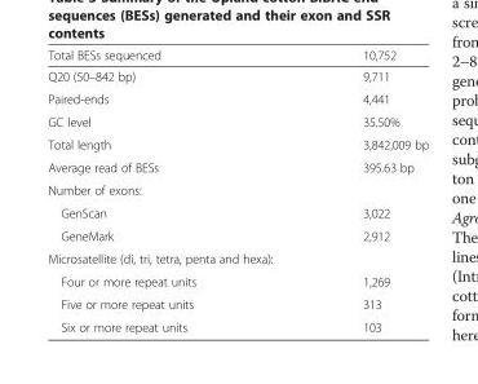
<table><thead><tr><td>Total BESs sequenced</td><td>10,752</td></tr></thead><tbody><tr><td>Q20 (50–842 bp)</td><td>9,711</td></tr><tr><td>Paired-ends</td><td>4,441</td></tr><tr><td>GC level</td><td>35.50%</td></tr><tr><td>Total length</td><td>3,842,009 bp</td></tr><tr><td>Average read of BESs</td><td>395.63 bp</td></tr><tr><td colspan="2">Number of exons:</td></tr><tr><td>GenScan</td><td>3,022</td></tr><tr><td>GeneMark</td><td>2,912</td></tr><tr><td colspan="2">Microsatellite (di, tri, tetra, penta and hexa):</td></tr><tr><td>Four or more repeat units</td><td>1,269</td></tr><tr><td>Five or more repeat units</td><td>313</td></tr><tr><td>Six or more repeat units</td><td>103</td></tr></tbody></table>